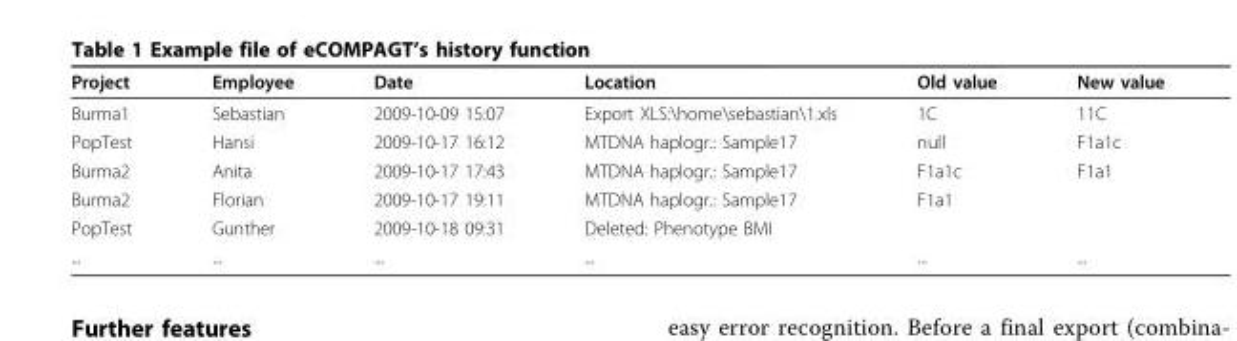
<table><thead><tr><td>Project</td><td>Employee</td><td>Date</td><td>Location</td><td>Old value</td><td>New value</td></tr></thead><tbody><tr><td>Burma1</td><td>Sebastian</td><td>2009-10-09 15:07</td><td>Export XLS:\home\sebastian\1.xls</td><td>1C</td><td>11C</td></tr><tr><td>PopTest</td><td>Hansi</td><td>2009-10-17 16:12</td><td>MTDNA haplogr.: Sample17</td><td>null</td><td>F1a1c</td></tr><tr><td>Burma2</td><td>Anita</td><td>2009-10-17 17:43</td><td>MTDNA haplogr.: Sample17</td><td>F1a1c</td><td>F1a1</td></tr><tr><td>Burma2</td><td>Florian</td><td>2009-10-17 19:11</td><td>MTDNA haplogr.: Sample17</td><td>F1a1</td><td></td></tr><tr><td>PopTest</td><td>Gunther</td><td>2009-10-18 09:31</td><td>Deleted: Phenotype BMI</td><td></td><td></td></tr><tr><td>...</td><td>...</td><td>...</td><td>...</td><td>...</td><td>...</td></tr></tbody></table>